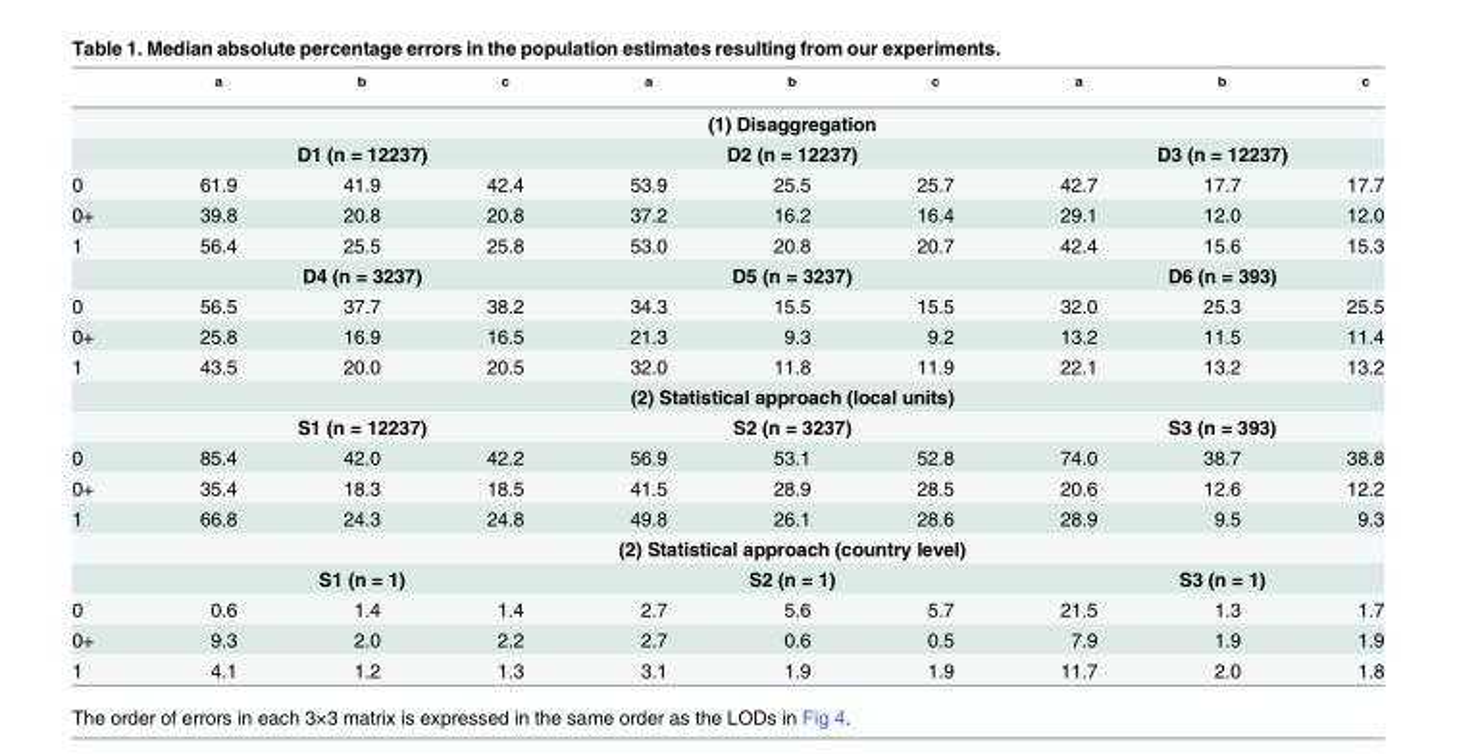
<table><thead><tr><td></td><td><sup>a</sup></td><td><sup>b</sup></td><td><sup>c</sup></td><td><sup>a</sup></td><td><sup>b</sup></td><td><sup>c</sup></td><td><sup>a</sup></td><td><sup>b</sup></td><td><sup>c</sup></td></tr></thead><tbody><tr><td></td><td colspan="9">(1) Disaggregation</td></tr><tr><td></td><td colspan="3">D1 (n = 12237)</td><td colspan="3">D2 (n = 12237)</td><td colspan="3">D3 (n = 12237)</td></tr><tr><td>0</td><td>61.9</td><td>41.9</td><td>42.4</td><td>53.9</td><td>25.5</td><td>25.7</td><td>42.7</td><td>17.7</td><td>17.7</td></tr><tr><td>0+</td><td>39.8</td><td>20.8</td><td>20.8</td><td>37.2</td><td>16.2</td><td>16.4</td><td>29.1</td><td>12.0</td><td>12.0</td></tr><tr><td rowspan="2">1</td><td>56.4</td><td>25.5</td><td>25.8</td><td>53.0</td><td>20.8</td><td>20.7</td><td>42.4</td><td>15.6</td><td>15.3</td></tr><tr><td colspan="3">D4 (n = 3237)</td><td colspan="3">D5 (n = 3237)</td><td colspan="3">D6 (n = 393)</td></tr><tr><td>0</td><td>56.5</td><td>37.7</td><td>38.2</td><td>34.3</td><td>15.5</td><td>15.5</td><td>32.0</td><td>25.3</td><td>25.5</td></tr><tr><td>0+</td><td>25.8</td><td>16.9</td><td>16.5</td><td>21.3</td><td>9.3</td><td>9.2</td><td>13.2</td><td>11.5</td><td>11.4</td></tr><tr><td rowspan="3">1</td><td>43.5</td><td>20.0</td><td>20.5</td><td>32.0</td><td>11.8</td><td>11.9</td><td>22.1</td><td>13.2</td><td>13.2</td></tr><tr><td colspan="9">(2) Statistical approach (local units)</td></tr><tr><td colspan="3">S1 (n = 12237)</td><td colspan="3">S2 (n = 3237)</td><td colspan="3">S3 (n = 393)</td></tr><tr><td>0</td><td>85.4</td><td>42.0</td><td>42.2</td><td>56.9</td><td>53.1</td><td>52.8</td><td>74.0</td><td>38.7</td><td>38.8</td></tr><tr><td>0+</td><td>35.4</td><td>18.3</td><td>18.5</td><td>41.5</td><td>28.9</td><td>28.5</td><td>20.6</td><td>12.6</td><td>12.2</td></tr><tr><td rowspan="3">1</td><td>66.8</td><td>24.3</td><td>24.8</td><td>49.8</td><td>26.1</td><td>28.6</td><td>28.9</td><td>9.5</td><td>9.3</td></tr><tr><td colspan="9">(2) Statistical approach (country level)</td></tr><tr><td colspan="3">S1 (n = 1)</td><td colspan="3">S2 (n = 1)</td><td colspan="3">S3 (n = 1)</td></tr><tr><td>0</td><td>0.6</td><td>1.4</td><td>1.4</td><td>2.7</td><td>5.6</td><td>5.7</td><td>21.5</td><td>1.3</td><td>1.7</td></tr><tr><td>0+</td><td>9.3</td><td>2.0</td><td>2.2</td><td>2.7</td><td>0.6</td><td>0.5</td><td>7.9</td><td>1.9</td><td>1.9</td></tr><tr><td>1</td><td>4.1</td><td>1.2</td><td>1.3</td><td>3.1</td><td>1.9</td><td>1.9</td><td>11.7</td><td>2.0</td><td>1.8</td></tr></tbody></table>